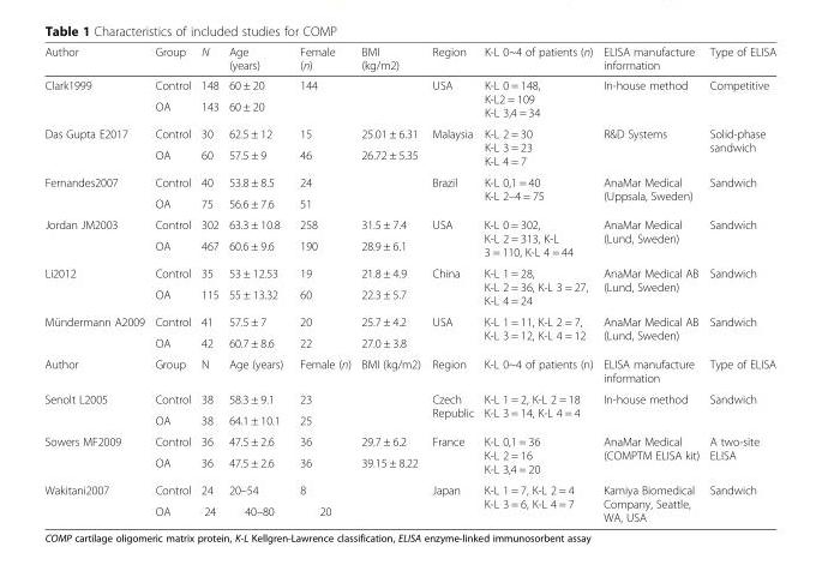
<table><thead><tr><td>Author</td><td>Group</td><td>N</td><td>Age (years)</td><td>Female (n)</td><td>BMI (kg/m2)</td><td>Region</td><td>K-L 0~4 of patients (n)</td><td>ELISA manufacture information</td><td>Type of ELISA</td></tr></thead><tbody><tr><td rowspan="2">Clark1999</td><td>Control</td><td>148</td><td>60 ± 20</td><td rowspan="2">144</td><td></td><td rowspan="2">USA</td><td rowspan="2">K-L 0 = 148, K-L2 = 109 K-L 3,4 = 34</td><td rowspan="2">In-house method</td><td rowspan="2">Competitive</td></tr><tr><td>OA</td><td>143</td><td>60 ± 20</td><td></td></tr><tr><td rowspan="2">Das Gupta E2017</td><td>Control</td><td>30</td><td>62.5 ± 12</td><td>15</td><td>25.01 ± 6.31</td><td rowspan="2">Malaysia</td><td rowspan="2">K-L 2 = 30 K-L 3 = 23 K-L 4 = 7</td><td rowspan="2">R&amp;D Systems</td><td rowspan="2">Solid-phase sandwich</td></tr><tr><td>OA</td><td>60</td><td>57.5 ± 9</td><td>46</td><td>26.72 ± 5.35</td></tr><tr><td rowspan="2">Fernandes2007</td><td>Control</td><td>40</td><td>53.8 ± 8.5</td><td>24</td><td></td><td rowspan="2">Brazil</td><td rowspan="2">K-L 0,1 = 40 K-L 2–4 = 75</td><td rowspan="2">AnaMar Medical (Uppsala, Sweden)</td><td rowspan="2">Sandwich</td></tr><tr><td>OA</td><td>75</td><td>56.6 ± 7.6</td><td>51</td><td></td></tr><tr><td rowspan="2">Jordan JM2003</td><td>Control</td><td>302</td><td>63.3 ± 10.8</td><td>258</td><td>31.5 ± 7.4</td><td rowspan="2">USA</td><td rowspan="2">K-L 0 = 302, K-L 2 = 313, K-L 3 = 110, K-L 4 = 44</td><td rowspan="2">AnaMar Medical (Lund, Sweden)</td><td rowspan="2">Sandwich</td></tr><tr><td>OA</td><td>467</td><td>60.6 ± 9.6</td><td>190</td><td>28.9 ± 6.1</td></tr><tr><td rowspan="2">Li2012</td><td>Control</td><td>35</td><td>53 ± 12.53</td><td>19</td><td>21.8 ± 4.9</td><td rowspan="2">China</td><td rowspan="2">K-L 1 = 28, K-L 2 = 36, K-L 3 = 27, K-L 4 = 24</td><td rowspan="2">AnaMar Medical AB (Lund, Sweden)</td><td rowspan="2">Sandwich</td></tr><tr><td>OA</td><td>115</td><td>55 ± 13.32</td><td>60</td><td>22.3 ± 5.7</td></tr><tr><td rowspan="2">Mündermann A2009</td><td>Control</td><td>41</td><td>57.5 ± 7</td><td>20</td><td>25.7 ± 4.2</td><td rowspan="2">USA</td><td rowspan="2">K-L 1 = 11, K-L 2 = 7, K-L 3 = 12, K-L 4 = 12</td><td rowspan="2">AnaMar Medical AB (Lund, Sweden)</td><td rowspan="2">Sandwich</td></tr><tr><td>OA</td><td>42</td><td>60.7 ± 8.6</td><td>22</td><td>27.0 ± 3.8</td></tr><tr><td>Author</td><td>Group</td><td>N</td><td>Age (years)</td><td>Female (n)</td><td>BMI (kg/m2)</td><td>Region</td><td>K-L 0~4 of patients (n)</td><td>ELISA manufacture information</td><td>Type of ELISA</td></tr><tr><td rowspan="2">Senolt L2005</td><td>Control</td><td>38</td><td>58.3 ± 9.1</td><td>23</td><td></td><td rowspan="2">Czech Republic</td><td rowspan="2">K-L 1 = 2, K-L 2 = 18 K-L 3 = 14, K-L 4 = 4</td><td rowspan="2">In-house method</td><td rowspan="2">Sandwich</td></tr><tr><td>OA</td><td>38</td><td>64.1 ± 10.1</td><td>25</td><td></td></tr><tr><td rowspan="2">Sowers MF2009</td><td>Control</td><td>36</td><td>47.5 ± 2.6</td><td>36</td><td>29.7 ± 6.2</td><td rowspan="2">France</td><td rowspan="2">K-L 0,1 = 36 K-L 2 = 16 K-L 3,4 = 20</td><td rowspan="2">AnaMar Medical (COMPTM ELISA kit)</td><td rowspan="2">A two-site ELISA</td></tr><tr><td>OA</td><td>36</td><td>47.5 ± 2.6</td><td>36</td><td>39.15 ± 8.22</td></tr><tr><td rowspan="2">Wakitani2007</td><td>Control</td><td>24</td><td>20–54</td><td>8</td><td></td><td rowspan="2">Japan</td><td rowspan="2">K-L 1 = 7, K-L 2 = 4 K-L 3 = 6, K-L 4 = 7</td><td rowspan="2">Kamiya Biomedical Company, Seattle, WA, USA</td><td rowspan="2">Sandwich</td></tr><tr><td>OA</td><td>24</td><td>40–80</td><td>20</td><td></td></tr></tbody></table>